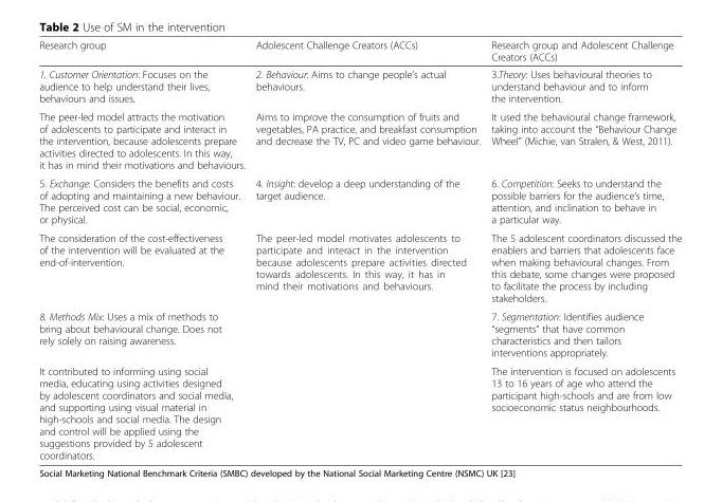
<table><thead><tr><td>Research group</td><td>Adolescent Challenge Creators (ACCs)</td><td>Research group and Adolescent Challenge Creators (ACCs)</td></tr></thead><tbody><tr><td>1. Customer Orientation: Focuses on the audience to help understand their lives, behaviours and issues.</td><td>2. Behaviour: Aims to change people’s actual behaviours.</td><td>3.Theory: Uses behavioural theories to understand behaviour and to inform the intervention.</td></tr><tr><td>The peer-led model attracts the motivation of adolescents to participate and interact in the intervention, because adolescents prepare activities directed to adolescents. In this way, it has in mind their motivations and behaviours.</td><td>Aims to improve the consumption of fruits and vegetables, PA practice, and breakfast consumption and decrease the TV, PC and video game behaviour.</td><td>It used the behavioural change framework, taking into account the “Behaviour Change Wheel” (Michie, van Stralen, &amp; West, 2011).</td></tr><tr><td>5. Exchange: Considers the benefits and costs of adopting and maintaining a new behaviour. The perceived cost can be social, economic, or physical.</td><td>4. Insight: develop a deep understanding of the target audience.</td><td>6. Competition: Seeks to understand the possible barriers for the audience’s time, attention, and inclination to behave in a particular way.</td></tr><tr><td>The consideration of the cost-effectiveness of the intervention will be evaluated at the end-of-intervention.</td><td>The peer-led model motivates adolescents to participate and interact in the intervention because adolescents prepare activities directed towards adolescents. In this way, it has in mind their motivations and behaviours.</td><td>The 5 adolescent coordinators discussed the enablers and barriers that adolescents face when making behavioural changes. From this debate, some changes were proposed to facilitate the process by including stakeholders.</td></tr><tr><td>8. Methods Mix: Uses a mix of methods to bring about behavioural change. Does not rely solely on raising awareness.</td><td></td><td>7. Segmentation: Identifies audience “segments” that have common characteristics and then tailors interventions appropriately.</td></tr><tr><td>It contributed to informing using social media, educating using activities designed by adolescent coordinators and social media, and supporting using visual material in high-schools and social media. The design and control will be applied using the suggestions provided by 5 adolescent coordinators.</td><td></td><td>The intervention is focused on adolescents 13 to 16 years of age who attend the participant high-schools and are from low socioeconomic status neighbourhoods.</td></tr></tbody></table>